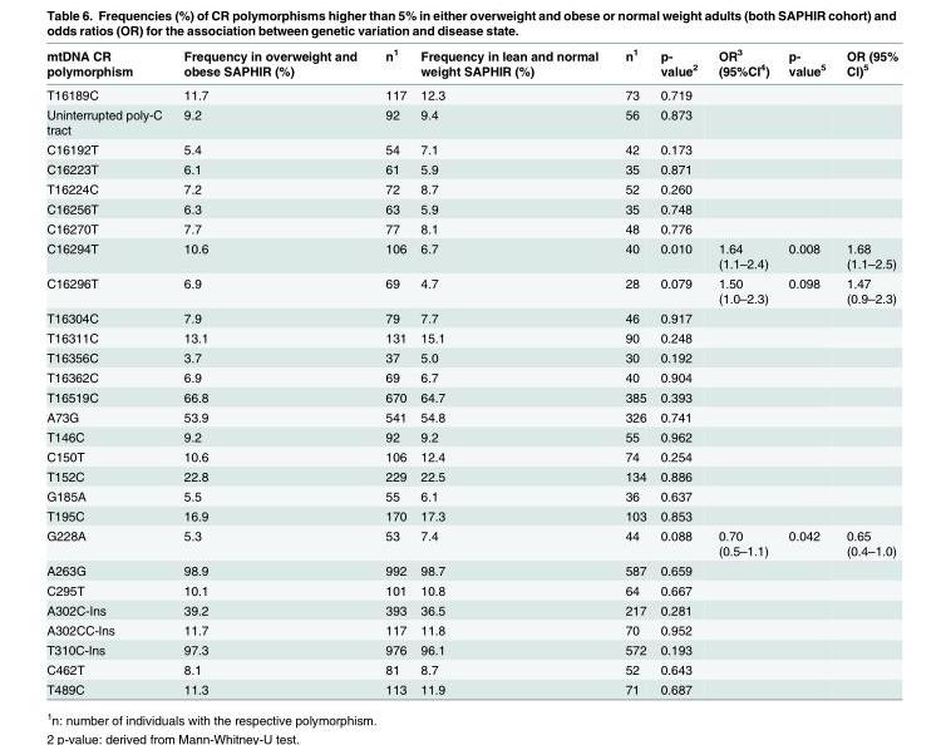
<table><thead><tr><td>mtDNA CR polymorphism</td><td>Frequency in overweight and obese SAPHIR (%)</td><td>n<sup>1</sup></td><td>Frequency in lean and normal weight SAPHIR (%)</td><td>n<sup>1</sup></td><td>p- value<sup>2</sup></td><td>OR<sup>3</sup> (95%CI<sup>4</sup>)</td><td>p- value<sup>5</sup></td><td>OR (95% CI)<sup>5</sup></td></tr></thead><tbody><tr><td>T16189C</td><td>11.7</td><td>117</td><td>12.3</td><td>73</td><td>0.719</td><td></td><td></td><td></td></tr><tr><td>Uninterrupted poly-C tract</td><td>9.2</td><td>92</td><td>9.4</td><td>56</td><td>0.873</td><td></td><td></td><td></td></tr><tr><td>C16192T</td><td>5.4</td><td>54</td><td>7.1</td><td>42</td><td>0.173</td><td></td><td></td><td></td></tr><tr><td>C16223T</td><td>6.1</td><td>61</td><td>5.9</td><td>35</td><td>0.871</td><td></td><td></td><td></td></tr><tr><td>T16224C</td><td>7.2</td><td>72</td><td>8.7</td><td>52</td><td>0.260</td><td></td><td></td><td></td></tr><tr><td>C16256T</td><td>6.3</td><td>63</td><td>5.9</td><td>35</td><td>0.748</td><td></td><td></td><td></td></tr><tr><td>C16270T</td><td>7.7</td><td>77</td><td>8.1</td><td>48</td><td>0.776</td><td></td><td></td><td></td></tr><tr><td>C16294T</td><td>10.6</td><td>106</td><td>6.7</td><td>40</td><td>0.010</td><td>1.64 (1.1–2.4)</td><td>0.008</td><td>1.68 (1.1–2.5)</td></tr><tr><td>C16296T</td><td>6.9</td><td>69</td><td>4.7</td><td>28</td><td>0.079</td><td>1.50 (1.0–2.3)</td><td>0.098</td><td>1.47 (0.9–2.3)</td></tr><tr><td>T16304C</td><td>7.9</td><td>79</td><td>7.7</td><td>46</td><td>0.917</td><td></td><td></td><td></td></tr><tr><td>T16311C</td><td>13.1</td><td>131</td><td>15.1</td><td>90</td><td>0.248</td><td></td><td></td><td></td></tr><tr><td>T16356C</td><td>3.7</td><td>37</td><td>5.0</td><td>30</td><td>0.192</td><td></td><td></td><td></td></tr><tr><td>T16362C</td><td>6.9</td><td>69</td><td>6.7</td><td>40</td><td>0.904</td><td></td><td></td><td></td></tr><tr><td>T16519C</td><td>66.8</td><td>670</td><td>64.7</td><td>385</td><td>0.393</td><td></td><td></td><td></td></tr><tr><td>A73G</td><td>53.9</td><td>541</td><td>54.8</td><td>326</td><td>0.741</td><td></td><td></td><td></td></tr><tr><td>T146C</td><td>9.2</td><td>92</td><td>9.2</td><td>55</td><td>0.962</td><td></td><td></td><td></td></tr><tr><td>C150T</td><td>10.6</td><td>106</td><td>12.4</td><td>74</td><td>0.254</td><td></td><td></td><td></td></tr><tr><td>T152C</td><td>22.8</td><td>229</td><td>22.5</td><td>134</td><td>0.886</td><td></td><td></td><td></td></tr><tr><td>G185A</td><td>5.5</td><td>55</td><td>6.1</td><td>36</td><td>0.637</td><td></td><td></td><td></td></tr><tr><td>T195C</td><td>16.9</td><td>170</td><td>17.3</td><td>103</td><td>0.853</td><td></td><td></td><td></td></tr><tr><td>G228A</td><td>5.3</td><td>53</td><td>7.4</td><td>44</td><td>0.088</td><td>0.70 (0.5–1.1)</td><td>0.042</td><td>0.65 (0.4–1.0)</td></tr><tr><td>A263G</td><td>98.9</td><td>992</td><td>98.7</td><td>587</td><td>0.659</td><td></td><td></td><td></td></tr><tr><td>C295T</td><td>10.1</td><td>101</td><td>10.8</td><td>64</td><td>0.667</td><td></td><td></td><td></td></tr><tr><td>A302C-Ins</td><td>39.2</td><td>393</td><td>36.5</td><td>217</td><td>0.281</td><td></td><td></td><td></td></tr><tr><td>A302CC-Ins</td><td>11.7</td><td>117</td><td>11.8</td><td>70</td><td>0.952</td><td></td><td></td><td></td></tr><tr><td>T310C-Ins</td><td>97.3</td><td>976</td><td>96.1</td><td>572</td><td>0.193</td><td></td><td></td><td></td></tr><tr><td>C462T</td><td>8.1</td><td>81</td><td>8.7</td><td>52</td><td>0.643</td><td></td><td></td><td></td></tr><tr><td>T489C</td><td>11.3</td><td>113</td><td>11.9</td><td>71</td><td>0.687</td><td></td><td></td><td></td></tr></tbody></table>